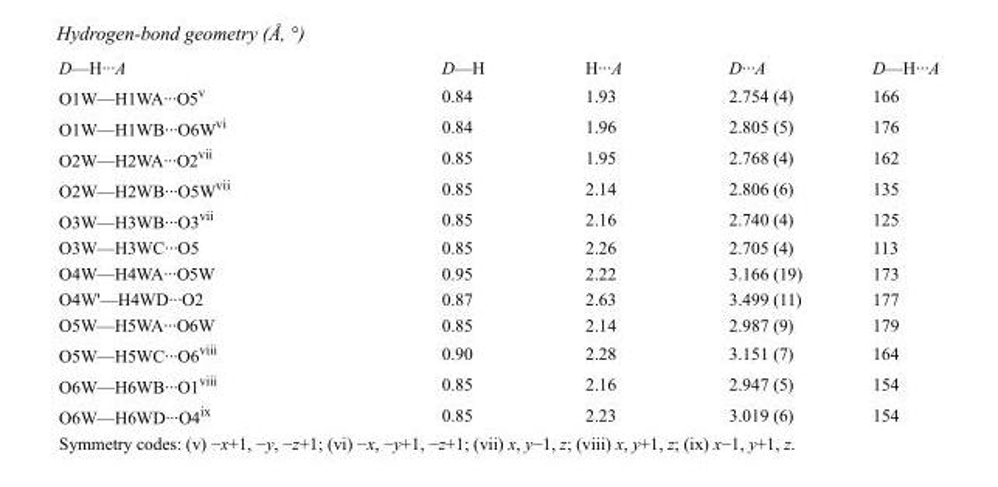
<table><tbody><tr><td>D—H···A</td><td>D—H</td><td>H···A</td><td>D···A</td><td>D—H···A</td></tr><tr><td>O1W—H1WA···O5<sup>v</sup></td><td>0.84</td><td>1.93</td><td>2.754 (4)</td><td>166</td></tr><tr><td>O1W—H1WB···O6W<sup>vi</sup></td><td>0.84</td><td>1.96</td><td>2.805 (5)</td><td>176</td></tr><tr><td>O2W—H2WA···O2<sup>vii</sup></td><td>0.85</td><td>1.95</td><td>2.768 (4)</td><td>162</td></tr><tr><td>O2W—H2WB···O5W<sup>vii</sup></td><td>0.85</td><td>2.14</td><td>2.806 (6)</td><td>135</td></tr><tr><td>O3W—H3WB···O3<sup>vii</sup></td><td>0.85</td><td>2.16</td><td>2.740 (4)</td><td>125</td></tr><tr><td>O3W—H3WC···O5</td><td>0.85</td><td>2.26</td><td>2.705 (4)</td><td>113</td></tr><tr><td>O4W—H4WA···O5W</td><td>0.95</td><td>2.22</td><td>3.166 (19)</td><td>173</td></tr><tr><td>O4W&#x27;—H4WD···O2</td><td>0.87</td><td>2.63</td><td>3.499 (11)</td><td>177</td></tr><tr><td>O5W—H5WA···O6W</td><td>0.85</td><td>2.14</td><td>2.987 (9)</td><td>179</td></tr><tr><td>O5W—H5WC···O6<sup>viii</sup></td><td>0.90</td><td>2.28</td><td>3.151 (7)</td><td>164</td></tr><tr><td>O6W—H6WB···O1<sup>viii</sup></td><td>0.85</td><td>2.16</td><td>2.947 (5)</td><td>154</td></tr><tr><td>O6W—H6WD···O4<sup>ix</sup></td><td>0.85</td><td>2.23</td><td>3.019 (6)</td><td>154</td></tr></tbody></table>